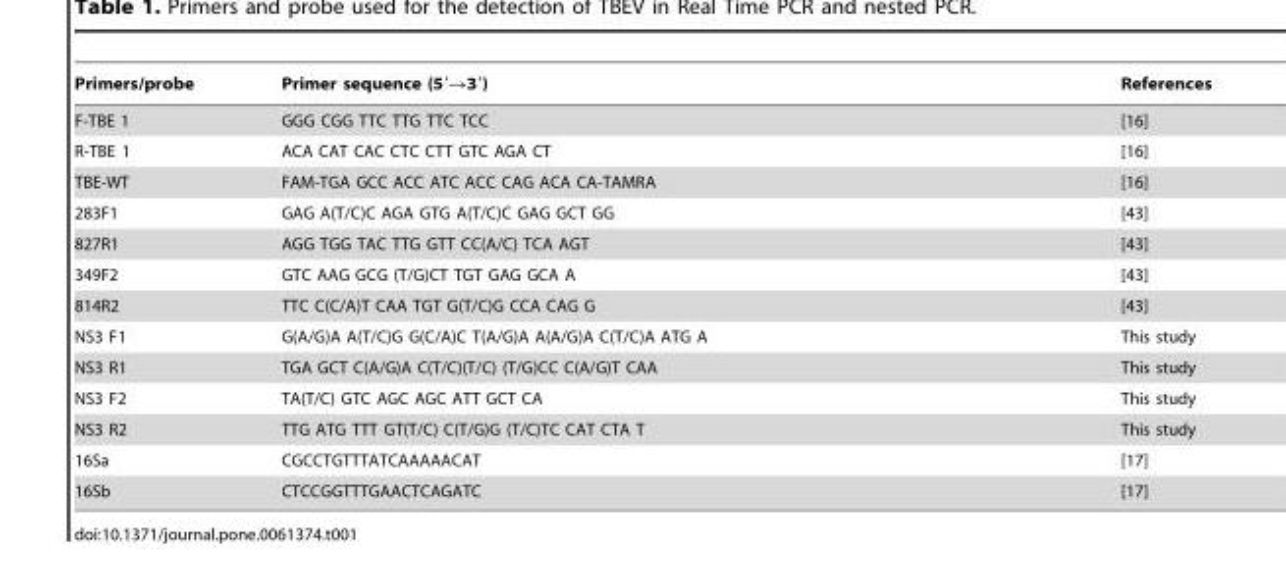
<table><thead><tr><td>Primers/probe</td><td>Primer sequence (5′→3′)</td><td>References</td></tr></thead><tbody><tr><td>F-TBE 1</td><td>GGG CGG TTC TTG TTC TCC</td><td>[16]</td></tr><tr><td>R-TBE 1</td><td>ACA CAT CAC CTC CTT GTC AGA CT</td><td>[16]</td></tr><tr><td>TBE-WT</td><td>FAM-TGA GCC ACC ATC ACC CAG ACA CA-TAMRA</td><td>[16]</td></tr><tr><td>283F1</td><td>GAG A(T/C)C AGA GTG A(T/C)C GAG GCT GG</td><td>[43]</td></tr><tr><td>827R1</td><td>AGG TGG TAC TTG GTT CC(A/C) TCA AGT</td><td>[43]</td></tr><tr><td>349F2</td><td>GTC AAG GCG (T/G)CT TGT GAG GCA A</td><td>[43]</td></tr><tr><td>814R2</td><td>TTC C(C/A)T CAA TGT G(T/C)G CCA CAG G</td><td>[43]</td></tr><tr><td>NS3 F1</td><td>G(A/G)A A(T/C)G G(C/A)C T(A/G)A A(A/G)A C(T/C)A ATG A</td><td>This study</td></tr><tr><td>NS3 R1</td><td>TGA GCT C(A/G)A C(T/C)(T/C) (T/G)CC C(A/G)T CAA</td><td>This study</td></tr><tr><td>NS3 F2</td><td>TA(T/C) GTC AGC AGC ATT GCT CA</td><td>This study</td></tr><tr><td>NS3 R2</td><td>TTG ATG TTT GT(T/C) C(T/G)G (T/C)TC CAT CTA T</td><td>This study</td></tr><tr><td>16Sa</td><td>CGCCTGTTTATCAAAAACAT</td><td>[17]</td></tr><tr><td>16Sb</td><td>CTCCGGTTTGAACTCAGATC</td><td>[17]</td></tr></tbody></table>